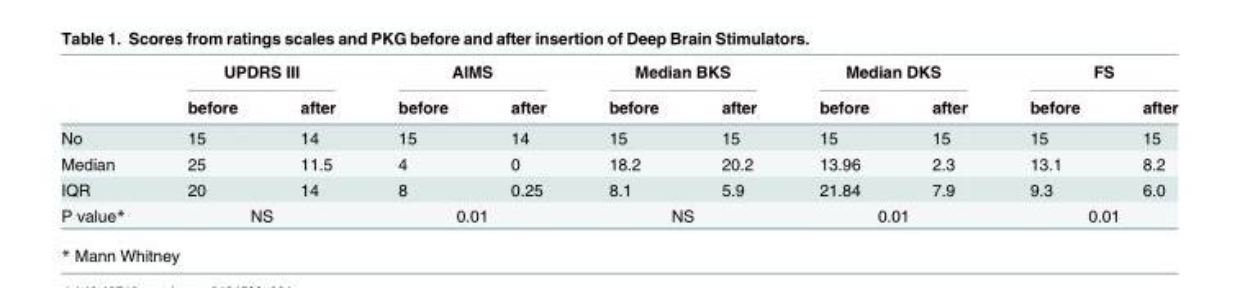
<table><thead><tr><td rowspan="2"></td><td colspan="2">UPDRS III</td><td colspan="2">AIMS</td><td colspan="2">Median BKS</td><td colspan="2">Median DKS</td><td colspan="2">FS</td></tr><tr><td>before</td><td>after</td><td>before</td><td>after</td><td>before</td><td>after</td><td>before</td><td>after</td><td>before</td><td>after</td></tr></thead><tbody><tr><td>No</td><td>15</td><td>14</td><td>15</td><td>14</td><td>15</td><td>15</td><td>15</td><td>15</td><td>15</td><td>15</td></tr><tr><td>Median</td><td>25</td><td>11.5</td><td>4</td><td>0</td><td>18.2</td><td>20.2</td><td>13.96</td><td>2.3</td><td>13.1</td><td>8.2</td></tr><tr><td>IQR</td><td>20</td><td>14</td><td>8</td><td>0.25</td><td>8.1</td><td>5.9</td><td>21.84</td><td>7.9</td><td>9.3</td><td>6.0</td></tr><tr><td>P value*</td><td colspan="2">NS</td><td colspan="2">0.01</td><td colspan="2">NS</td><td colspan="2">0.01</td><td colspan="2">0.01</td></tr></tbody></table>